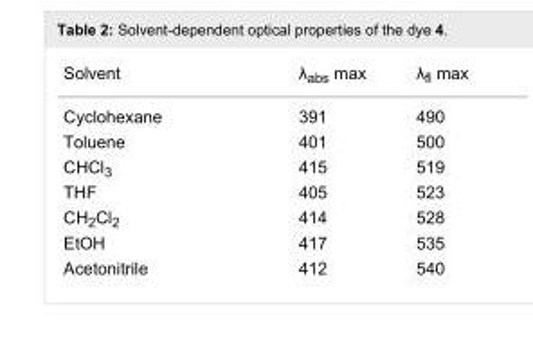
<table><tbody><tr><td>Solvent</td><td>λ<sub>abs</sub> max</td><td>λ<sub>fl</sub> max</td></tr><tr><td>Cyclohexane</td><td>391</td><td>490</td></tr><tr><td>Toluene</td><td>401</td><td>500</td></tr><tr><td>CHCl<sub>3</sub></td><td>415</td><td>519</td></tr><tr><td>THF</td><td>405</td><td>523</td></tr><tr><td>CH<sub>2</sub>Cl<sub>2</sub></td><td>414</td><td>528</td></tr><tr><td>EtOH</td><td>417</td><td>535</td></tr><tr><td>Acetonitrile</td><td>412</td><td>540</td></tr></tbody></table>